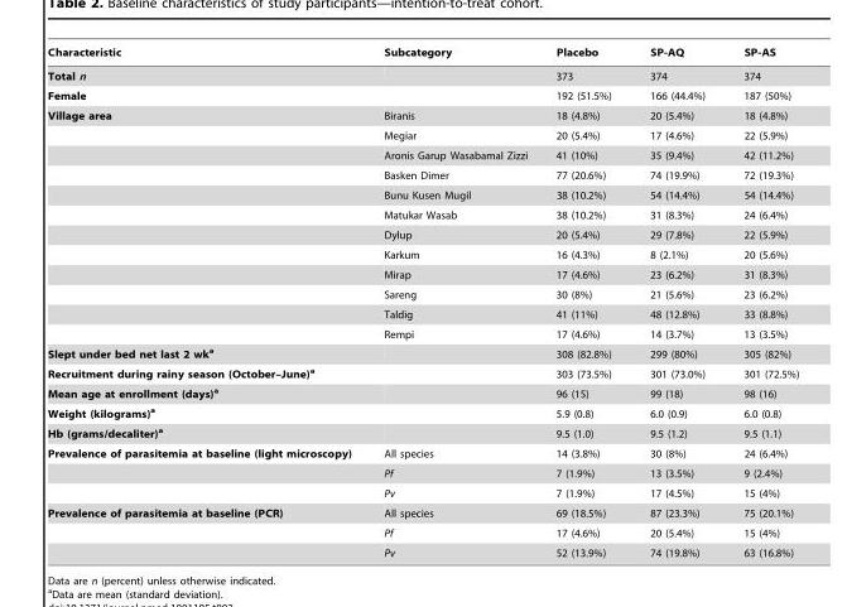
<table><thead><tr><td>Characteristic</td><td>Subcategory</td><td>Placebo</td><td>SP-AQ</td><td>SP-AS</td></tr></thead><tbody><tr><td>Total n</td><td></td><td>373</td><td>374</td><td>374</td></tr><tr><td>Female</td><td></td><td>192 (51.5%)</td><td>166 (44.4%)</td><td>187 (50%)</td></tr><tr><td rowspan="12">Village area</td><td>Biranis</td><td>18 (4.8%)</td><td>20 (5.4%)</td><td>18 (4.8%)</td></tr><tr><td>Megiar</td><td>20 (5.4%)</td><td>17 (4.6%)</td><td>22 (5.9%)</td></tr><tr><td>Aronis Garup Wasabamal Zizzi</td><td>41 (10%)</td><td>35 (9.4%)</td><td>42 (11.2%)</td></tr><tr><td>Basken Dimer</td><td>77 (20.6%)</td><td>74 (19.9%)</td><td>72 (19.3%)</td></tr><tr><td>Bunu Kusen Mugil</td><td>38 (10.2%)</td><td>54 (14.4%)</td><td>54 (14.4%)</td></tr><tr><td>Matukar Wasab</td><td>38 (10.2%)</td><td>31 (8.3%)</td><td>24 (6.4%)</td></tr><tr><td>Dylup</td><td>20 (5.4%)</td><td>29 (7.8%)</td><td>22 (5.9%)</td></tr><tr><td>Karkum</td><td>16 (4.3%)</td><td>8 (2.1%)</td><td>20 (5.6%)</td></tr><tr><td>Mirap</td><td>17 (4.6%)</td><td>23 (6.2%)</td><td>31 (8.3%)</td></tr><tr><td>Sareng</td><td>30 (8%)</td><td>21 (5.6%)</td><td>23 (6.2%)</td></tr><tr><td>Taldig</td><td>41 (11%)</td><td>48 (12.8%)</td><td>33 (8.8%)</td></tr><tr><td>Rempi</td><td>17 (4.6%)</td><td>14 (3.7%)</td><td>13 (3.5%)</td></tr><tr><td>Slept under bed net last 2 wka</td><td></td><td>308 (82.8%)</td><td>299 (80%)</td><td>305 (82%)</td></tr><tr><td>Recruitment during rainy season (October–June)a</td><td></td><td>303 (73.5%)</td><td>301 (73.0%)</td><td>301 (72.5%)</td></tr><tr><td>Mean age at enrollment (days)a</td><td></td><td>96 (15)</td><td>99 (18)</td><td>98 (16)</td></tr><tr><td>Weight (kilograms)a</td><td></td><td>5.9 (0.8)</td><td>6.0 (0.9)</td><td>6.0 (0.8)</td></tr><tr><td>Hb (grams/decaliter)a</td><td></td><td>9.5 (1.0)</td><td>9.5 (1.2)</td><td>9.5 (1.1)</td></tr><tr><td rowspan="3">Prevalence of parasitemia at baseline (light microscopy)</td><td>All species</td><td>14 (3.8%)</td><td>30 (8%)</td><td>24 (6.4%)</td></tr><tr><td>Pf</td><td>7 (1.9%)</td><td>13 (3.5%)</td><td>9 (2.4%)</td></tr><tr><td>Pv</td><td>7 (1.9%)</td><td>17 (4.5%)</td><td>15 (4%)</td></tr><tr><td rowspan="3">Prevalence of parasitemia at baseline (PCR)</td><td>All species</td><td>69 (18.5%)</td><td>87 (23.3%)</td><td>75 (20.1%)</td></tr><tr><td>Pf</td><td>17 (4.6%)</td><td>20 (5.4%)</td><td>15 (4%)</td></tr><tr><td>Pv</td><td>52 (13.9%)</td><td>74 (19.8%)</td><td>63 (16.8%)</td></tr></tbody></table>